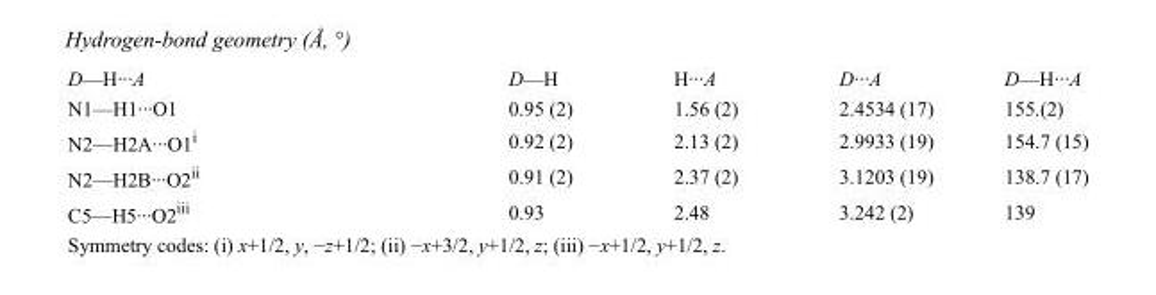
<table><tbody><tr><td>D—H···A</td><td>D—H</td><td>H···A</td><td>D···A</td><td>D—H···A</td></tr><tr><td>N1—H1···O1</td><td>0.95 (2)</td><td>1.56 (2)</td><td>2.4534 (17)</td><td>155.(2)</td></tr><tr><td>N2—H2A···O1<sup>i</sup></td><td>0.92 (2)</td><td>2.13 (2)</td><td>2.9933 (19)</td><td>154.7 (15)</td></tr><tr><td>N2—H2B···O2<sup>ii</sup></td><td>0.91 (2)</td><td>2.37 (2)</td><td>3.1203 (19)</td><td>138.7 (17)</td></tr><tr><td>C5—H5···O2<sup>iii</sup></td><td>0.93</td><td>2.48</td><td>3.242 (2)</td><td>139</td></tr></tbody></table>